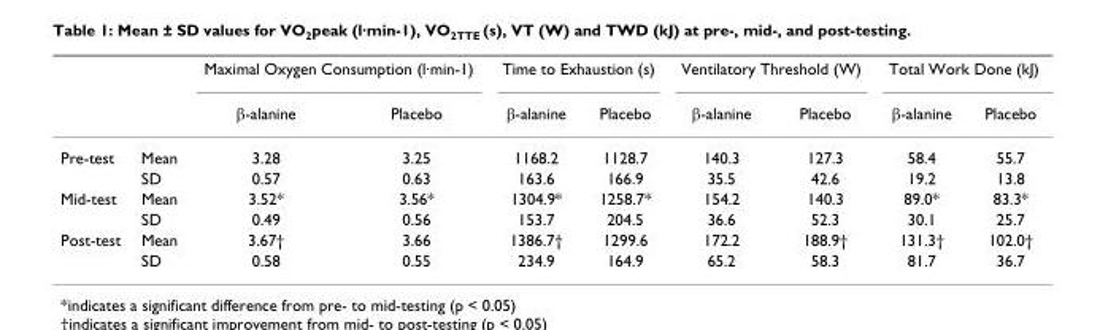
<table><thead><tr><td rowspan="2"></td><td rowspan="2"></td><td colspan="2">Maximal Oxygen Consumption (l·min-1)</td><td colspan="2">Time to Exhaustion (s)</td><td colspan="2">Ventilatory Threshold (W)</td><td colspan="2">Total Work Done (kJ)</td></tr><tr><td>β-alanine</td><td>Placebo</td><td>β-alanine</td><td>Placebo</td><td>β-alanine</td><td>Placebo</td><td>β-alanine</td><td>Placebo</td></tr></thead><tbody><tr><td rowspan="2">Pre-test</td><td>Mean</td><td>3.28</td><td>3.25</td><td>1168.2</td><td>1128.7</td><td>140.3</td><td>127.3</td><td>58.4</td><td>55.7</td></tr><tr><td>SD</td><td>0.57</td><td>0.63</td><td>163.6</td><td>166.9</td><td>35.5</td><td>42.6</td><td>19.2</td><td>13.8</td></tr><tr><td rowspan="2">Mid-test</td><td>Mean</td><td>3.52*</td><td>3.56*</td><td>1304.9*</td><td>1258.7*</td><td>154.2</td><td>140.3</td><td>89.0*</td><td>83.3*</td></tr><tr><td>SD</td><td>0.49</td><td>0.56</td><td>153.7</td><td>204.5</td><td>36.6</td><td>52.3</td><td>30.1</td><td>25.7</td></tr><tr><td rowspan="2">Post-test</td><td>Mean</td><td>3.67†</td><td>3.66</td><td>1386.7†</td><td>1299.6</td><td>172.2</td><td>188.9†</td><td>131.3†</td><td>102.0†</td></tr><tr><td>SD</td><td>0.58</td><td>0.55</td><td>234.9</td><td>164.9</td><td>65.2</td><td>58.3</td><td>81.7</td><td>36.7</td></tr></tbody></table>